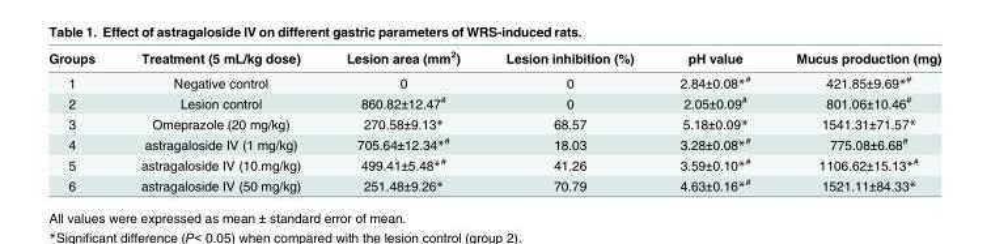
<table><thead><tr><td>Groups</td><td>Treatment (5 mL/kg dose)</td><td>Lesion area (mm<sup>2</sup>)</td><td>Lesion inhibition (%)</td><td>pH value</td><td>Mucus production (mg)</td></tr></thead><tbody><tr><td>1</td><td>Negative control</td><td>0</td><td>0</td><td>2.84±0.08*<sup>#</sup></td><td>421.85±9.69*<sup>#</sup></td></tr><tr><td>2</td><td>Lesion control</td><td>860.82±12.47<sup>#</sup></td><td>0</td><td>2.05±0.09<sup>#</sup></td><td>801.06±10.46<sup>#</sup></td></tr><tr><td>3</td><td>Omeprazole (20 mg/kg)</td><td>270.58±9.13*</td><td>68.57</td><td>5.18±0.09*</td><td>1541.31±71.57*</td></tr><tr><td>4</td><td>astragaloside IV (1 mg/kg)</td><td>705.64±12.34*<sup>#</sup></td><td>18.03</td><td>3.28±0.08*<sup>#</sup></td><td>775.08±6.68<sup>#</sup></td></tr><tr><td>5</td><td>astragaloside IV (10 mg/kg)</td><td>499.41±5.48*<sup>#</sup></td><td>41.26</td><td>3.59±0.10*<sup>#</sup></td><td>1106.62±15.13*<sup>#</sup></td></tr><tr><td>6</td><td>astragaloside IV (50 mg/kg)</td><td>251.48±9.26*</td><td>70.79</td><td>4.63±0.16*<sup>#</sup></td><td>1521.11±84.33*</td></tr></tbody></table>